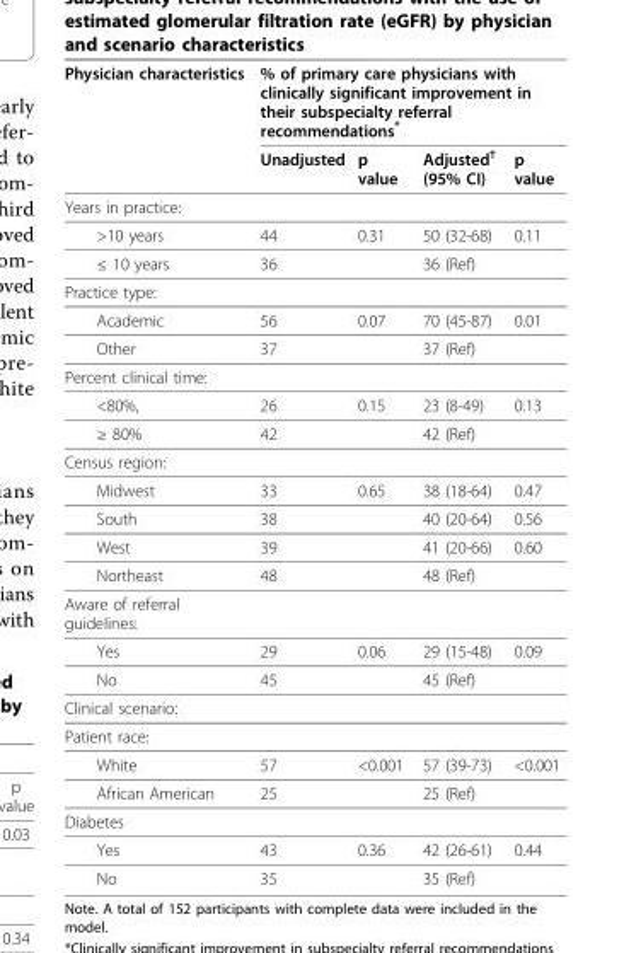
<table><thead><tr><td rowspan="2">Physician characteristics</td><td colspan="4">% of primary care physicians with clinically significant improvement in their subspecialty referral recommendations*</td></tr><tr><td>Unadjusted</td><td>p value</td><td>Adjusted<sup>†</sup> (95% CI)</td><td>p value</td></tr></thead><tbody><tr><td colspan="5">Years in practice:</td></tr><tr><td>&gt;10 years</td><td>44</td><td>0.31</td><td>50 (32-68)</td><td>0.11</td></tr><tr><td>≤ 10 years</td><td>36</td><td></td><td>36 (Ref)</td><td></td></tr><tr><td colspan="5">Practice type:</td></tr><tr><td>Academic</td><td>56</td><td>0.07</td><td>70 (45-87)</td><td>0.01</td></tr><tr><td>Other</td><td>37</td><td></td><td>37 (Ref)</td><td></td></tr><tr><td colspan="5">Percent clinical time:</td></tr><tr><td>&lt;80%,</td><td>26</td><td>0.15</td><td>23 (8-49)</td><td>0.13</td></tr><tr><td>≥ 80%</td><td>42</td><td></td><td>42 (Ref)</td><td></td></tr><tr><td colspan="5">Census region:</td></tr><tr><td>Midwest</td><td>33</td><td>0.65</td><td>38 (18-64)</td><td>0.47</td></tr><tr><td>South</td><td>38</td><td></td><td>40 (20-64)</td><td>0.56</td></tr><tr><td>West</td><td>39</td><td></td><td>41 (20-66)</td><td>0.60</td></tr><tr><td>Northeast</td><td>48</td><td></td><td>48 (Ref)</td><td></td></tr><tr><td colspan="5">Aware of referral guidelines:</td></tr><tr><td>Yes</td><td>29</td><td>0.06</td><td>29 (15-48)</td><td>0.09</td></tr><tr><td>No</td><td>45</td><td></td><td>45 (Ref)</td><td></td></tr><tr><td colspan="5">Clinical scenario:</td></tr><tr><td colspan="5">Patient race:</td></tr><tr><td>White</td><td>57</td><td>&lt;0.001</td><td>57 (39-73)</td><td>&lt;0.001</td></tr><tr><td>African American</td><td>25</td><td></td><td>25 (Ref)</td><td></td></tr><tr><td colspan="5">Diabetes</td></tr><tr><td>Yes</td><td>43</td><td>0.36</td><td>42 (26-61)</td><td>0.44</td></tr><tr><td>No</td><td>35</td><td></td><td>35 (Ref)</td><td></td></tr></tbody></table>